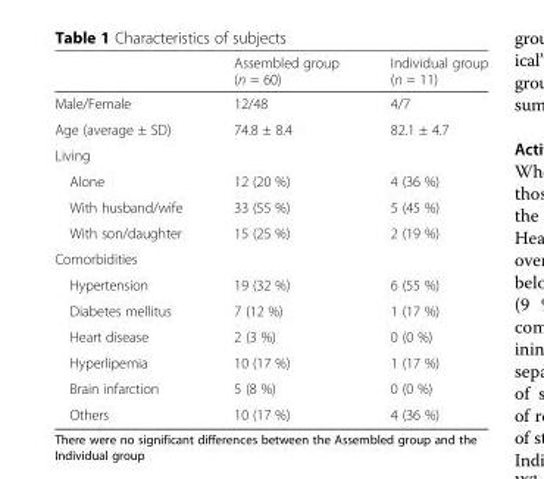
<table><thead><tr><td></td><td>Assembled group (n = 60)</td><td>Individual group (n = 11)</td></tr></thead><tbody><tr><td>Male/Female</td><td>12/48</td><td>4/7</td></tr><tr><td>Age (average ± SD)</td><td>74.8 ± 8.4</td><td>82.1 ± 4.7</td></tr><tr><td colspan="3">Living</td></tr><tr><td>Alone</td><td>12 (20 %)</td><td>4 (36 %)</td></tr><tr><td>With husband/wife</td><td>33 (55 %)</td><td>5 (45 %)</td></tr><tr><td>With son/daughter</td><td>15 (25 %)</td><td>2 (19 %)</td></tr><tr><td colspan="3">Comorbidities</td></tr><tr><td>Hypertension</td><td>19 (32 %)</td><td>6 (55 %)</td></tr><tr><td>Diabetes mellitus</td><td>7 (12 %)</td><td>1 (17 %)</td></tr><tr><td>Heart disease</td><td>2 (3 %)</td><td>0 (0 %)</td></tr><tr><td>Hyperlipemia</td><td>10 (17 %)</td><td>1 (17 %)</td></tr><tr><td>Brain infarction</td><td>5 (8 %)</td><td>0 (0 %)</td></tr><tr><td>Others</td><td>10 (17 %)</td><td>4 (36 %)</td></tr></tbody></table>